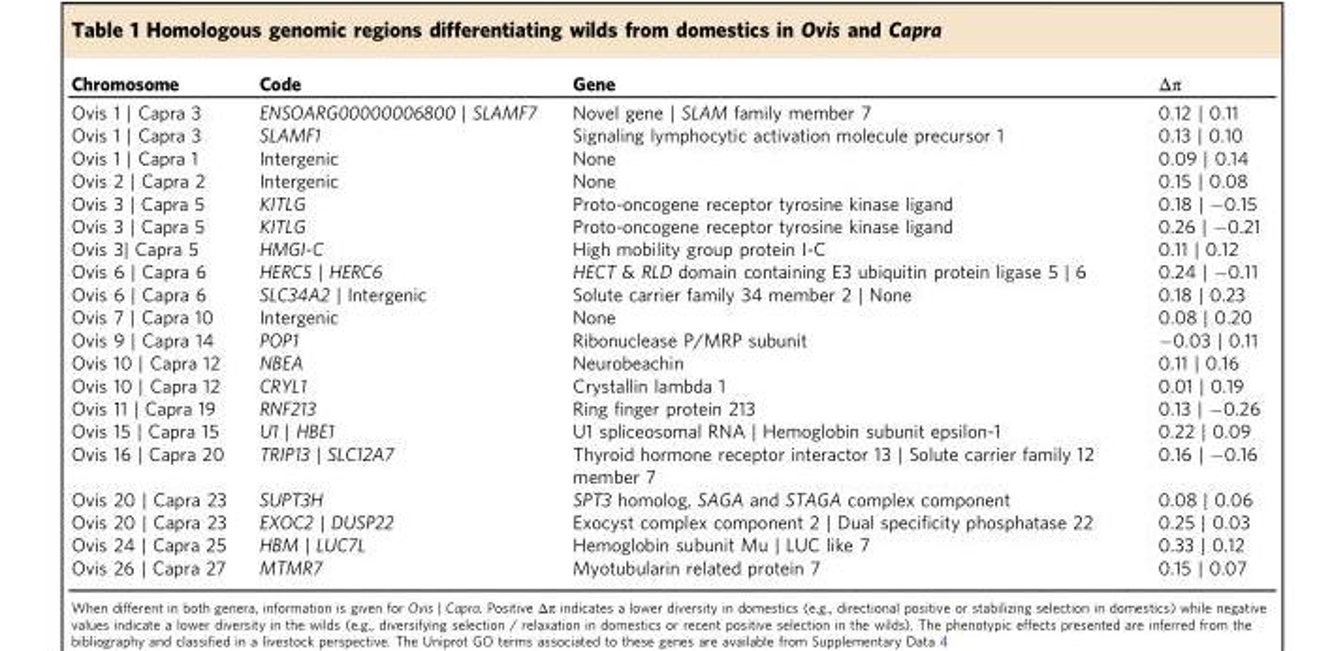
<table><thead><tr><td>Chromosome</td><td>Code</td><td>Gene</td><td>Δπ</td></tr></thead><tbody><tr><td>Ovis 1 | Capra 3</td><td>ENSOARG00000006800 | SLAMF7</td><td>Novel gene | SLAM family member 7</td><td>0.12 | 0.11</td></tr><tr><td>Ovis 1 | Capra 3</td><td>SLAMF1</td><td>Signaling lymphocytic activation molecule precursor 1</td><td>0.13 | 0.10</td></tr><tr><td>Ovis 1 | Capra 1</td><td>Intergenic</td><td>None</td><td>0.09 | 0.14</td></tr><tr><td>Ovis 2 | Capra 2</td><td>Intergenic</td><td>None</td><td>0.15 | 0.08</td></tr><tr><td>Ovis 3 | Capra 5</td><td>KITLG</td><td>Proto-oncogene receptor tyrosine kinase ligand</td><td>0.18 | −0.15</td></tr><tr><td>Ovis 3 | Capra 5</td><td>KITLG</td><td>Proto-oncogene receptor tyrosine kinase ligand</td><td>0.26 | −0.21</td></tr><tr><td>Ovis 3| Capra 5</td><td>HMGI-C</td><td>High mobility group protein I-C</td><td>0.11 | 0.12</td></tr><tr><td>Ovis 6 | Capra 6</td><td>HERC5 | HERC6</td><td>HECT &amp; RLD domain containing E3 ubiquitin protein ligase 5 | 6</td><td>0.24 | −0.11</td></tr><tr><td>Ovis 6 | Capra 6</td><td>SLC34A2 | Intergenic</td><td>Solute carrier family 34 member 2 | None</td><td>0.18 | 0.23</td></tr><tr><td>Ovis 7 | Capra 10</td><td>Intergenic</td><td>None</td><td>0.08 | 0.20</td></tr><tr><td>Ovis 9 | Capra 14</td><td>POP1</td><td>Ribonuclease P/MRP subunit</td><td>−0.03 | 0.11</td></tr><tr><td>Ovis 10 | Capra 12</td><td>NBEA</td><td>Neurobeachin</td><td>0.11 | 0.16</td></tr><tr><td>Ovis 10 | Capra 12</td><td>CRYL1</td><td>Crystallin lambda 1</td><td>0.01 | 0.19</td></tr><tr><td>Ovis 11 | Capra 19</td><td>RNF213</td><td>Ring finger protein 213</td><td>0.13 | −0.26</td></tr><tr><td>Ovis 15 | Capra 15</td><td>U1 | HBE1</td><td>U1 spliceosomal RNA | Hemoglobin subunit epsilon-1</td><td>0.22 | 0.09</td></tr><tr><td>Ovis 16 | Capra 20</td><td>TRIP13 | SLC12A7</td><td>Thyroid hormone receptor interactor 13 | Solute carrier family 12 member 7</td><td>0.16 | −0.16</td></tr><tr><td>Ovis 20 | Capra 23</td><td>SUPT3H</td><td>SPT3 homolog, SAGA and STAGA complex component</td><td>0.08 | 0.06</td></tr><tr><td>Ovis 20 | Capra 23</td><td>EXOC2 | DUSP22</td><td>Exocyst complex component 2 | Dual specificity phosphatase 22</td><td>0.25 | 0.03</td></tr><tr><td>Ovis 24 | Capra 25</td><td>HBM | LUC7L</td><td>Hemoglobin subunit Mu | LUC like 7</td><td>0.33 | 0.12</td></tr><tr><td>Ovis 26 | Capra 27</td><td>MTMR7</td><td>Myotubularin related protein 7</td><td>0.15 | 0.07</td></tr></tbody></table>